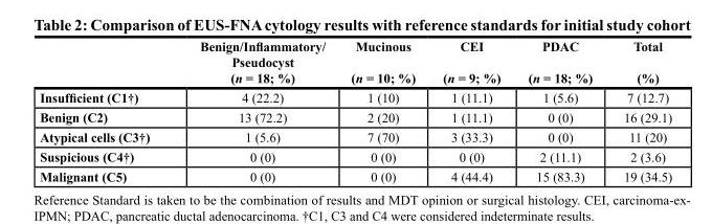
<table><thead><tr><td></td><td>Benign/Inflammatory/ Pseudocyst (n = 18; %)</td><td>Mucinous (n = 10; %)</td><td>CEI (n = 9; %)</td><td>PDAC (n = 18; %)</td><td>Total (%)</td></tr></thead><tbody><tr><td>Insufficient (C1<sup>†</sup>)</td><td>4 (22.2)</td><td>1 (10)</td><td>1 (11.1)</td><td>1 (5.6)</td><td>7 (12.7)</td></tr><tr><td>Benign (C2)</td><td>13 (72.2)</td><td>2 (20)</td><td>1 (11.1)</td><td>0 (0)</td><td>16 (29.1)</td></tr><tr><td>Atypical cells (C3<sup>†</sup>)</td><td>1 (5.6)</td><td>7 (70)</td><td>3 (33.3)</td><td>0 (0)</td><td>11 (20)</td></tr><tr><td>Suspicious (C4<sup>†</sup>)</td><td>0 (0)</td><td>0 (0)</td><td>0 (0)</td><td>2 (11.1)</td><td>2 (3.6)</td></tr><tr><td>Malignant (C5)</td><td>0 (0)</td><td>0 (0)</td><td>4 (44.4)</td><td>15 (83.3)</td><td>19 (34.5)</td></tr></tbody></table>